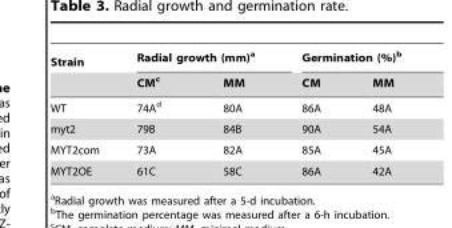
<table><thead><tr><td rowspan="2">Strain</td><td colspan="2">Radial growth (mm)<sup>a</sup></td><td colspan="2">Germination (%)<sup>b</sup></td></tr><tr><td>CM<sup>c</sup></td><td>MM</td><td>CM</td><td>MM</td></tr></thead><tbody><tr><td>WT</td><td>74A<sup>d</sup></td><td>80A</td><td>86A</td><td>48A</td></tr><tr><td>myt2</td><td>79B</td><td>84B</td><td>90A</td><td>54A</td></tr><tr><td>MYT2com</td><td>73A</td><td>82A</td><td>85A</td><td>45A</td></tr><tr><td>MYT2OE</td><td>61C</td><td>58C</td><td>86A</td><td>42A</td></tr></tbody></table>